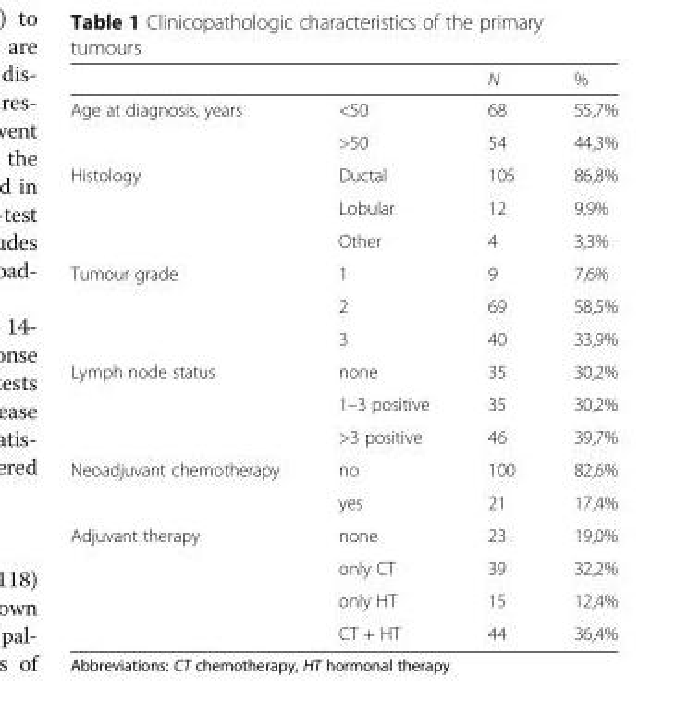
<table><thead><tr><td></td><td></td><td>N</td><td>%</td></tr></thead><tbody><tr><td rowspan="2">Age at diagnosis, years</td><td>&lt;50</td><td>68</td><td>55,7%</td></tr><tr><td>&gt;50</td><td>54</td><td>44,3%</td></tr><tr><td rowspan="3">Histology</td><td>Ductal</td><td>105</td><td>86,8%</td></tr><tr><td>Lobular</td><td>12</td><td>9,9%</td></tr><tr><td>Other</td><td>4</td><td>3,3%</td></tr><tr><td rowspan="3">Tumour grade</td><td>1</td><td>9</td><td>7,6%</td></tr><tr><td>2</td><td>69</td><td>58,5%</td></tr><tr><td>3</td><td>40</td><td>33,9%</td></tr><tr><td rowspan="3">Lymph node status</td><td>none</td><td>35</td><td>30,2%</td></tr><tr><td>1–3 positive</td><td>35</td><td>30,2%</td></tr><tr><td>&gt;3 positive</td><td>46</td><td>39,7%</td></tr><tr><td rowspan="2">Neoadjuvant chemotherapy</td><td>no</td><td>100</td><td>82,6%</td></tr><tr><td>yes</td><td>21</td><td>17,4%</td></tr><tr><td rowspan="4">Adjuvant therapy</td><td>none</td><td>23</td><td>19,0%</td></tr><tr><td>only CT</td><td>39</td><td>32,2%</td></tr><tr><td>only HT</td><td>15</td><td>12,4%</td></tr><tr><td>CT + HT</td><td>44</td><td>36,4%</td></tr></tbody></table>